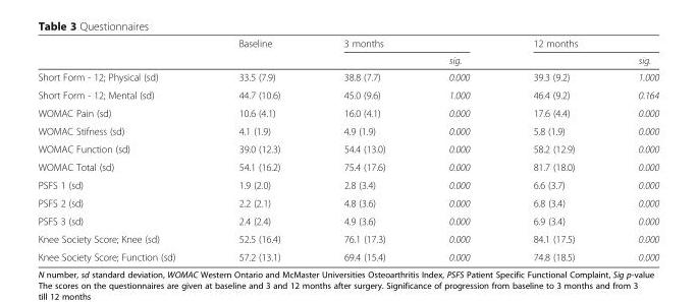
<table><thead><tr><td rowspan="2"></td><td rowspan="2">Baseline</td><td colspan="2">3 months</td><td colspan="2">12 months</td></tr><tr><td></td><td>sig.</td><td></td><td>sig.</td></tr></thead><tbody><tr><td>Short Form - 12; Physical (sd)</td><td>33.5 (7.9)</td><td>38.8 (7.7)</td><td>0.000</td><td>39.3 (9.2)</td><td>1.000</td></tr><tr><td>Short Form - 12; Mental (sd)</td><td>44.7 (10.6)</td><td>45.0 (9.6)</td><td>1.000</td><td>46.4 (9.2)</td><td>0.164</td></tr><tr><td>WOMAC Pain (sd)</td><td>10.6 (4.1)</td><td>16.0 (4.1)</td><td>0.000</td><td>17.6 (4.4)</td><td>0.000</td></tr><tr><td>WOMAC Stifness (sd)</td><td>4.1 (1.9)</td><td>4.9 (1.9)</td><td>0.000</td><td>5.8 (1.9)</td><td>0.000</td></tr><tr><td>WOMAC Function (sd)</td><td>39.0 (12.3)</td><td>54.4 (13.0)</td><td>0.000</td><td>58.2 (12.9)</td><td>0.000</td></tr><tr><td>WOMAC Total (sd)</td><td>54.1 (16.2)</td><td>75.4 (17.6)</td><td>0.000</td><td>81.7 (18.0)</td><td>0.000</td></tr><tr><td>PSFS 1 (sd)</td><td>1.9 (2.0)</td><td>2.8 (3.4)</td><td>0.000</td><td>6.6 (3.7)</td><td>0.000</td></tr><tr><td>PSFS 2 (sd)</td><td>2.2 (2.1)</td><td>4.8 (3.6)</td><td>0.000</td><td>6.8 (3.4)</td><td>0.000</td></tr><tr><td>PSFS 3 (sd)</td><td>2.4 (2.4)</td><td>4.9 (3.6)</td><td>0.000</td><td>6.9 (3.4)</td><td>0.000</td></tr><tr><td>Knee Society Score; Knee (sd)</td><td>52.5 (16.4)</td><td>76.1 (17.3)</td><td>0.000</td><td>84.1 (17.5)</td><td>0.000</td></tr><tr><td>Knee Society Score; Function (sd)</td><td>57.2 (13.1)</td><td>69.4 (15.4)</td><td>0.000</td><td>74.8 (18.5)</td><td>0.000</td></tr></tbody></table>